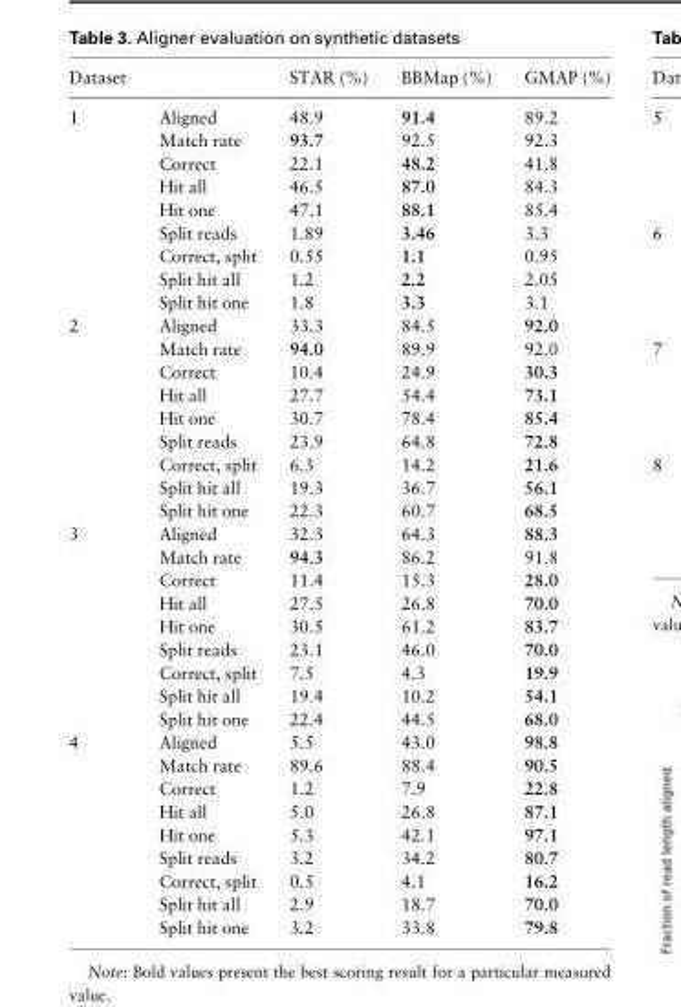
<table><thead><tr><td>Dataset</td><td></td><td>STAR (%)</td><td>BBMap (%)</td><td>GMAP (%)</td></tr></thead><tbody><tr><td rowspan="9">1</td><td>Aligned</td><td>48.9</td><td>91.4</td><td>89.2</td></tr><tr><td>Match rate</td><td>93.7</td><td>92.5</td><td>92.3</td></tr><tr><td>Correct</td><td>22.1</td><td>48.2</td><td>41.8</td></tr><tr><td>Hit all</td><td>46.5</td><td>87.0</td><td>84.3</td></tr><tr><td>Hit one</td><td>47.1</td><td>88.1</td><td>85.4</td></tr><tr><td>Split reads</td><td>1.89</td><td>3.46</td><td>3.3</td></tr><tr><td>Correct, split</td><td>0.55</td><td>1.1</td><td>0.95</td></tr><tr><td>Split hit all</td><td>1.2</td><td>2.2</td><td>2.05</td></tr><tr><td>Split hit one</td><td>1.8</td><td>3.3</td><td>3.1</td></tr><tr><td rowspan="9">2</td><td>Aligned</td><td>33.3</td><td>84.5</td><td>92.0</td></tr><tr><td>Match rate</td><td>94.0</td><td>89.9</td><td>92.0</td></tr><tr><td>Correct</td><td>10.4</td><td>24.9</td><td>30.3</td></tr><tr><td>Hit all</td><td>27.7</td><td>54.4</td><td>73.1</td></tr><tr><td>Hit one</td><td>30.7</td><td>78.4</td><td>85.4</td></tr><tr><td>Split reads</td><td>23.9</td><td>64.8</td><td>72.8</td></tr><tr><td>Correct, split</td><td>6.3</td><td>14.2</td><td>21.6</td></tr><tr><td>Split hit all</td><td>19.3</td><td>36.7</td><td>56.1</td></tr><tr><td>Split hit one</td><td>22.3</td><td>60.7</td><td>68.5</td></tr><tr><td rowspan="9">3</td><td>Aligned</td><td>32.3</td><td>64.3</td><td>88.3</td></tr><tr><td>Match rate</td><td>94.3</td><td>86.2</td><td>91.8</td></tr><tr><td>Correct</td><td>11.4</td><td>15.3</td><td>28.0</td></tr><tr><td>Hit all</td><td>27.5</td><td>26.8</td><td>70.0</td></tr><tr><td>Hit one</td><td>30.5</td><td>61.2</td><td>83.7</td></tr><tr><td>Split reads</td><td>23.1</td><td>46.0</td><td>70.0</td></tr><tr><td>Correct, split</td><td>7.5</td><td>4.3</td><td>19.9</td></tr><tr><td>Split hit all</td><td>19.4</td><td>10.2</td><td>54.1</td></tr><tr><td>Split hit one</td><td>22.4</td><td>44.5</td><td>68.0</td></tr><tr><td rowspan="9">4</td><td>Aligned</td><td>5.5</td><td>43.0</td><td>98.8</td></tr><tr><td>Match rate</td><td>89.6</td><td>88.4</td><td>90.5</td></tr><tr><td>Correct</td><td>1.2</td><td>7.9</td><td>22.8</td></tr><tr><td>Hit all</td><td>5.0</td><td>26.8</td><td>87.1</td></tr><tr><td>Hit one</td><td>5.3</td><td>42.1</td><td>97.1</td></tr><tr><td>Split reads</td><td>3.2</td><td>34.2</td><td>80.7</td></tr><tr><td>Correct, split</td><td>0.5</td><td>4.1</td><td>16.2</td></tr><tr><td>Split hit all</td><td>2.9</td><td>18.7</td><td>70.0</td></tr><tr><td>Split hit one</td><td>3.2</td><td>33.8</td><td>79.8</td></tr></tbody></table>